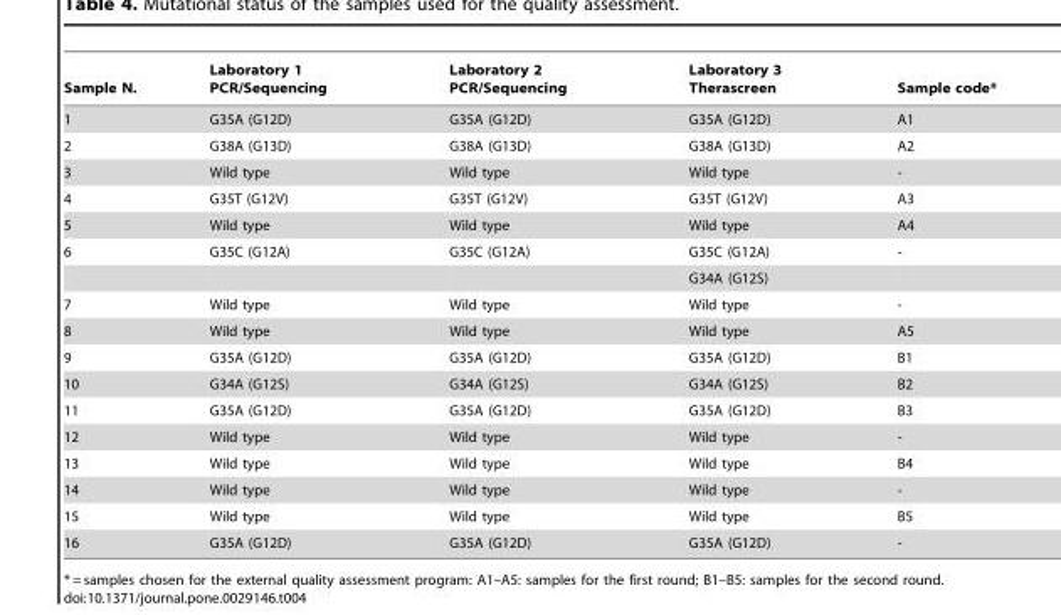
<table><thead><tr><td>Sample N.</td><td>Laboratory 1 PCR/Sequencing</td><td>Laboratory 2 PCR/Sequencing</td><td>Laboratory 3 Therascreen</td><td>Sample code*</td></tr></thead><tbody><tr><td>1</td><td>G35A (G12D)</td><td>G35A (G12D)</td><td>G35A (G12D)</td><td>A1</td></tr><tr><td>2</td><td>G38A (G13D)</td><td>G38A (G13D)</td><td>G38A (G13D)</td><td>A2</td></tr><tr><td>3</td><td>Wild type</td><td>Wild type</td><td>Wild type</td><td>-</td></tr><tr><td>4</td><td>G35T (G12V)</td><td>G35T (G12V)</td><td>G35T (G12V)</td><td>A3</td></tr><tr><td>5</td><td>Wild type</td><td>Wild type</td><td>Wild type</td><td>A4</td></tr><tr><td rowspan="2">6</td><td>G35C (G12A)</td><td>G35C (G12A)</td><td>G35C (G12A)</td><td>-</td></tr><tr><td></td><td></td><td>G34A (G12S)</td><td></td></tr><tr><td>7</td><td>Wild type</td><td>Wild type</td><td>Wild type</td><td>-</td></tr><tr><td>8</td><td>Wild type</td><td>Wild type</td><td>Wild type</td><td>A5</td></tr><tr><td>9</td><td>G35A (G12D)</td><td>G35A (G12D)</td><td>G35A (G12D)</td><td>B1</td></tr><tr><td>10</td><td>G34A (G12S)</td><td>G34A (G12S)</td><td>G34A (G12S)</td><td>B2</td></tr><tr><td>11</td><td>G35A (G12D)</td><td>G35A (G12D)</td><td>G35A (G12D)</td><td>B3</td></tr><tr><td>12</td><td>Wild type</td><td>Wild type</td><td>Wild type</td><td>-</td></tr><tr><td>13</td><td>Wild type</td><td>Wild type</td><td>Wild type</td><td>B4</td></tr><tr><td>14</td><td>Wild type</td><td>Wild type</td><td>Wild type</td><td>-</td></tr><tr><td>15</td><td>Wild type</td><td>Wild type</td><td>Wild type</td><td>B5</td></tr><tr><td>16</td><td>G35A (G12D)</td><td>G35A (G12D)</td><td>G35A (G12D)</td><td>-</td></tr></tbody></table>